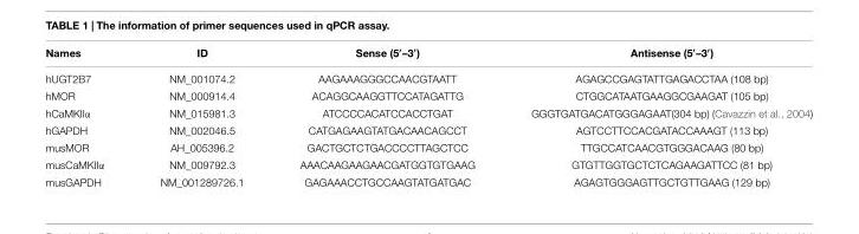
<table><thead><tr><td>Names</td><td>ID</td><td>Sense (5′–3′)</td><td>Antisense (5′–3′)</td></tr></thead><tbody><tr><td>hUGT2B7</td><td>NM_001074.2</td><td>AAGAAAGGGCCAACGTAATT</td><td>AGAGCCGAGTATTGAGACCTAA (108 bp)</td></tr><tr><td>hMOR</td><td>NM_000914.4</td><td>ACAGGCAAGGTTCCATAGATTG</td><td>CTGGCATAATGAAGGCGAAGAT (105 bp)</td></tr><tr><td>hCaMKIIα</td><td>NM_015981.3</td><td>ATCCCCACATCCACCTGAT</td><td>GGGTGATGACATGGGAGAAT(304 bp) (Cavazzin et al., 2004)</td></tr><tr><td>hGAPDH</td><td>NM_002046.5</td><td>CATGAGAAGTATGACAACAGCCT</td><td>AGTCCTTCCACGATACCAAAGT (113 bp)</td></tr><tr><td>musMOR</td><td>AH_005396.2</td><td>GACTGCTCTGACCCCTTAGCTCC</td><td>TTGCCATCAACGTGGGACAAG (80 bp)</td></tr><tr><td>musCaMKIIα</td><td>NM_009792.3</td><td>AAACAAGAAGAACGATGGTGTGAAG</td><td>GTGTTGGTGCTCTCAGAAGATTCC (81 bp)</td></tr><tr><td>musGAPDH</td><td>NM_001289726.1</td><td>GAGAAACCTGCCAAGTATGATGAC</td><td>AGAGTGGGAGTTGCTGTTGAAG (129 bp)</td></tr></tbody></table>